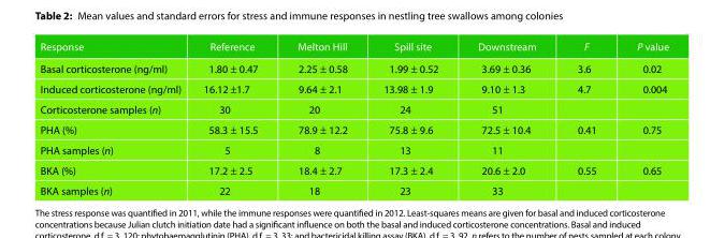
<table><thead><tr><td>Response</td><td>Reference</td><td>Melton Hill</td><td>Spill site</td><td>Downstream</td><td>F</td><td>P value</td></tr></thead><tbody><tr><td>Basal corticosterone (ng/ml)</td><td>1.80 ± 0.47</td><td>2.25 ± 0.58</td><td>1.99 ± 0.52</td><td>3.69 ± 0.36</td><td>3.6</td><td>0.02</td></tr><tr><td>Induced corticosterone (ng/ml)</td><td>16.12 ±1.7</td><td>9.64 ± 2.1</td><td>13.98 ± 1.9</td><td>9.10 ± 1.3</td><td>4.7</td><td>0.004</td></tr><tr><td>Corticosterone samples (n)</td><td>30</td><td>20</td><td>24</td><td>51</td><td></td><td></td></tr><tr><td>PHA (%)</td><td>58.3 ± 15.5</td><td>78.9 ± 12.2</td><td>75.8 ± 9.6</td><td>72.5 ± 10.4</td><td>0.41</td><td>0.75</td></tr><tr><td>PHA samples (n)</td><td>5</td><td>8</td><td>13</td><td>11</td><td></td><td></td></tr><tr><td>BKA (%)</td><td>17.2 ± 2.5</td><td>18.4 ± 2.7</td><td>17.3 ± 2.4</td><td>20.6 ± 2.0</td><td>0.55</td><td>0.65</td></tr><tr><td>BKA samples (n)</td><td>22</td><td>18</td><td>23</td><td>33</td><td></td><td></td></tr></tbody></table>